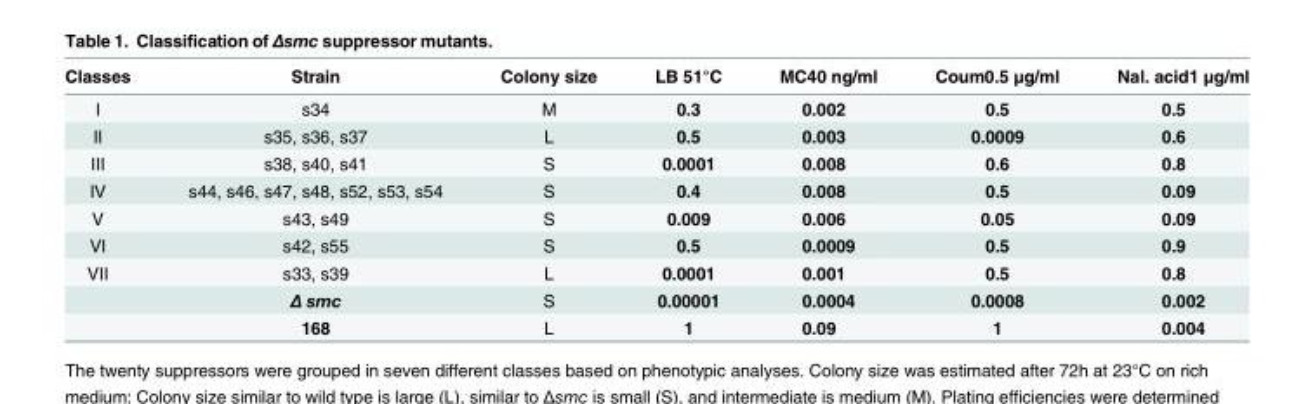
<table><thead><tr><td>Classes</td><td>Strain</td><td>Colony size</td><td>LB 51°C</td><td>MC40 ng/ml</td><td>Coum0.5 μg/ml</td><td>Nal. acid1 μg/ml</td></tr></thead><tbody><tr><td>I</td><td>s34</td><td>M</td><td>0.3</td><td>0.002</td><td>0.5</td><td>0.5</td></tr><tr><td>II</td><td>s35, s36, s37</td><td>L</td><td>0.5</td><td>0.003</td><td>0.0009</td><td>0.6</td></tr><tr><td>III</td><td>s38, s40, s41</td><td>S</td><td>0.0001</td><td>0.008</td><td>0.6</td><td>0.8</td></tr><tr><td>IV</td><td>s44, s46, s47, s48, s52, s53, s54</td><td>S</td><td>0.4</td><td>0.008</td><td>0.5</td><td>0.09</td></tr><tr><td>V</td><td>s43, s49</td><td>S</td><td>0.009</td><td>0.006</td><td>0.05</td><td>0.09</td></tr><tr><td>VI</td><td>s42, s55</td><td>S</td><td>0.5</td><td>0.0009</td><td>0.5</td><td>0.9</td></tr><tr><td rowspan="3">VII</td><td>s33, s39</td><td>L</td><td>0.0001</td><td>0.001</td><td>0.5</td><td>0.8</td></tr><tr><td>Δ smc</td><td>S</td><td>0.00001</td><td>0.0004</td><td>0.0008</td><td>0.002</td></tr><tr><td>168</td><td>L</td><td>1</td><td>0.09</td><td>1</td><td>0.004</td></tr></tbody></table>